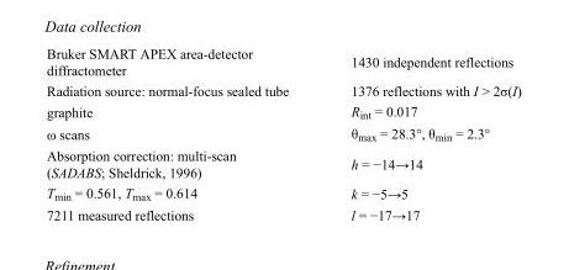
<table><tbody><tr><td>Bruker SMART APEX area-detector diffractometer</td><td>1430 independent reflections</td></tr><tr><td>Radiation source: normal-focus sealed tube</td><td>1376 reflections with I &gt; 2σ(I)</td></tr><tr><td>graphite</td><td>R<sub>int</sub> = 0.017</td></tr><tr><td>ω scans</td><td>θ<sub>max</sub> = 28.3°, θ<sub>min</sub> = 2.3°</td></tr><tr><td>Absorption correction: multi-scan (SADABS; Sheldrick, 1996)</td><td>h = −14→14</td></tr><tr><td>T<sub>min</sub> = 0.561, T<sub>max</sub> = 0.614</td><td>k = −5→5</td></tr><tr><td>7211 measured reflections</td><td>l = −17→17</td></tr></tbody></table>